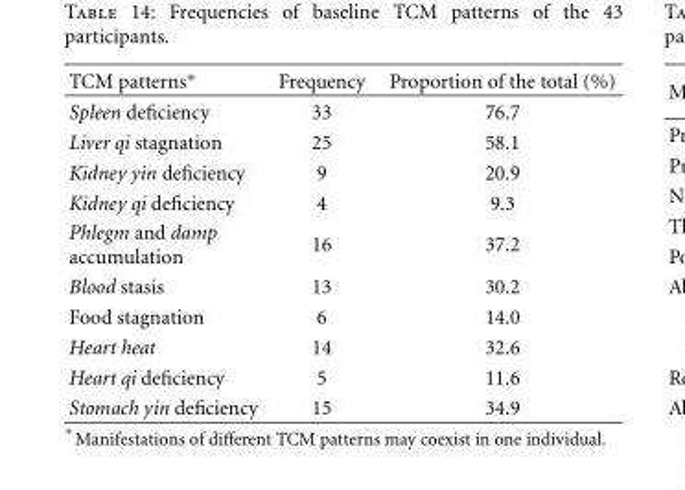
<table><thead><tr><td>TCM patterns∗</td><td>Frequency</td><td>Proportion of the total (%)</td></tr></thead><tbody><tr><td>Spleen deficiency</td><td>33</td><td>76.7</td></tr><tr><td>Liver qi stagnation</td><td>25</td><td>58.1</td></tr><tr><td>Kidney yin deficiency</td><td>9</td><td>20.9</td></tr><tr><td>Kidney qi deficiency</td><td>4</td><td>9.3</td></tr><tr><td>Phlegm and damp accumulation</td><td>16</td><td>37.2</td></tr><tr><td>Blood stasis</td><td>13</td><td>30.2</td></tr><tr><td>Food stagnation</td><td>6</td><td>14.0</td></tr><tr><td>Heart heat</td><td>14</td><td>32.6</td></tr><tr><td>Heart qi deficiency</td><td>5</td><td>11.6</td></tr><tr><td>Stomach yin deficiency</td><td>15</td><td>34.9</td></tr></tbody></table>